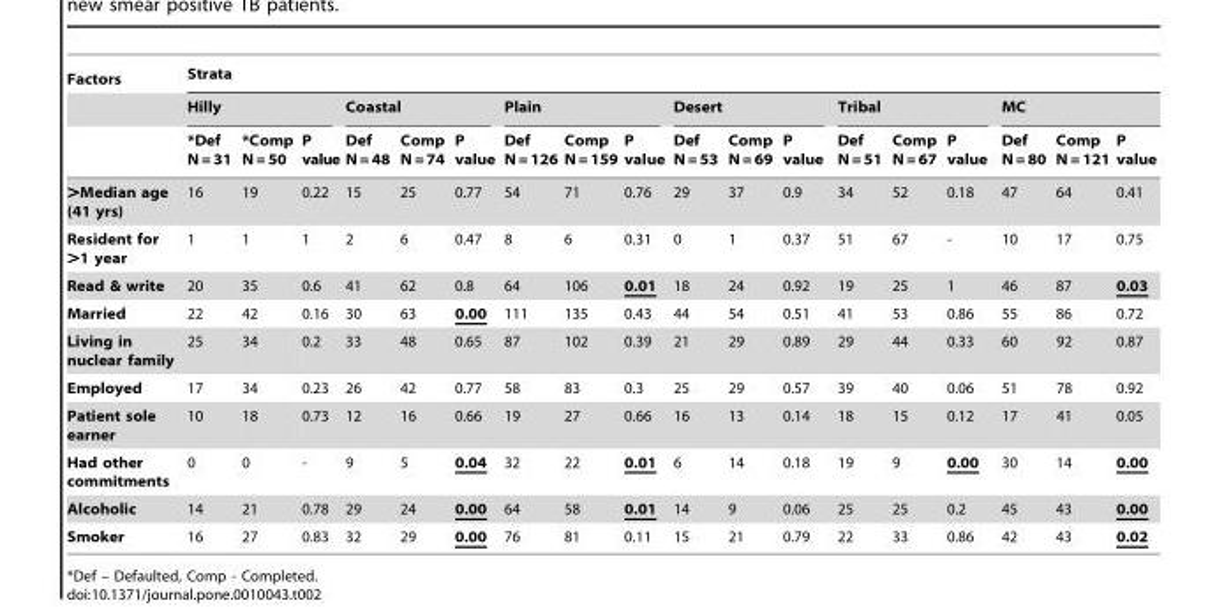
<table><thead><tr><td rowspan="3">Factors</td><td colspan="18">Strata</td></tr><tr><td colspan="3">Hilly</td><td colspan="3">Coastal</td><td colspan="3">Plain</td><td colspan="3">Desert</td><td colspan="3">Tribal</td><td colspan="3">MC</td></tr><tr><td>*Def N = 31</td><td>*Comp N = 50</td><td>P value</td><td>Def N = 48</td><td>Comp N = 74</td><td>P value</td><td>Def N = 126</td><td>Comp N = 159</td><td>P value</td><td>Def N = 53</td><td>Comp N = 69</td><td>P value</td><td>Def N = 51</td><td>Comp N = 67</td><td>P value</td><td>Def N = 80</td><td>Comp N = 121</td><td>P value</td></tr></thead><tbody><tr><td>&gt;Median age (41 yrs)</td><td>16</td><td>19</td><td>0.22</td><td>15</td><td>25</td><td>0.77</td><td>54</td><td>71</td><td>0.76</td><td>29</td><td>37</td><td>0.9</td><td>34</td><td>52</td><td>0.18</td><td>47</td><td>64</td><td>0.41</td></tr><tr><td>Resident for &gt;1 year</td><td>1</td><td>1</td><td>1</td><td>2</td><td>6</td><td>0.47</td><td>8</td><td>6</td><td>0.31</td><td>0</td><td>1</td><td>0.37</td><td>51</td><td>67</td><td>-</td><td>10</td><td>17</td><td>0.75</td></tr><tr><td>Read &amp; write</td><td>20</td><td>35</td><td>0.6</td><td>41</td><td>62</td><td>0.8</td><td>64</td><td>106</td><td>0.01</td><td>18</td><td>24</td><td>0.92</td><td>19</td><td>25</td><td>1</td><td>46</td><td>87</td><td>0.03</td></tr><tr><td>Married</td><td>22</td><td>42</td><td>0.16</td><td>30</td><td>63</td><td>0.00</td><td>111</td><td>135</td><td>0.43</td><td>44</td><td>54</td><td>0.51</td><td>41</td><td>53</td><td>0.86</td><td>55</td><td>86</td><td>0.72</td></tr><tr><td>Living in nuclear family</td><td>25</td><td>34</td><td>0.2</td><td>33</td><td>48</td><td>0.65</td><td>87</td><td>102</td><td>0.39</td><td>21</td><td>29</td><td>0.89</td><td>29</td><td>44</td><td>0.33</td><td>60</td><td>92</td><td>0.87</td></tr><tr><td>Employed</td><td>17</td><td>34</td><td>0.23</td><td>26</td><td>42</td><td>0.77</td><td>58</td><td>83</td><td>0.3</td><td>25</td><td>29</td><td>0.57</td><td>39</td><td>40</td><td>0.06</td><td>51</td><td>78</td><td>0.92</td></tr><tr><td>Patient sole earner</td><td>10</td><td>18</td><td>0.73</td><td>12</td><td>16</td><td>0.66</td><td>19</td><td>27</td><td>0.66</td><td>16</td><td>13</td><td>0.14</td><td>18</td><td>15</td><td>0.12</td><td>17</td><td>41</td><td>0.05</td></tr><tr><td>Had other commitments</td><td>0</td><td>0</td><td>-</td><td>9</td><td>5</td><td>0.04</td><td>32</td><td>22</td><td>0.01</td><td>6</td><td>14</td><td>0.18</td><td>19</td><td>9</td><td>0.00</td><td>30</td><td>14</td><td>0.00</td></tr><tr><td>Alcoholic</td><td>14</td><td>21</td><td>0.78</td><td>29</td><td>24</td><td>0.00</td><td>64</td><td>58</td><td>0.01</td><td>14</td><td>9</td><td>0.06</td><td>25</td><td>25</td><td>0.2</td><td>45</td><td>43</td><td>0.00</td></tr><tr><td>Smoker</td><td>16</td><td>27</td><td>0.83</td><td>32</td><td>29</td><td>0.00</td><td>76</td><td>81</td><td>0.11</td><td>15</td><td>21</td><td>0.79</td><td>22</td><td>33</td><td>0.86</td><td>42</td><td>43</td><td>0.02</td></tr></tbody></table>